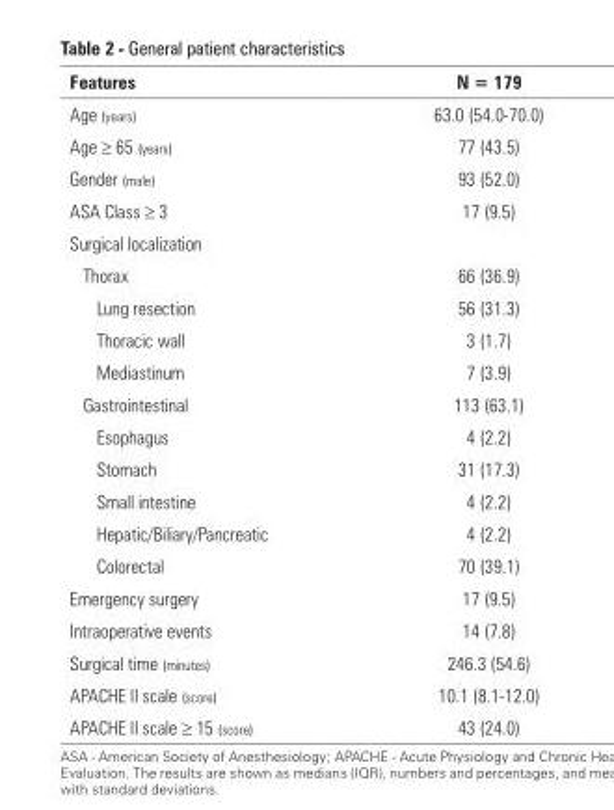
<table><thead><tr><td>Features</td><td>N = 179</td></tr></thead><tbody><tr><td>Age (years)</td><td>63.0 (54.0-70.0)</td></tr><tr><td>Age ≥ 65 (years)</td><td>77 (43.5)</td></tr><tr><td>Gender (male)</td><td>93 (52.0)</td></tr><tr><td>ASA Class ≥ 3</td><td>17 (9.5)</td></tr><tr><td colspan="2">Surgical localization</td></tr><tr><td>Thorax</td><td>66 (36.9)</td></tr><tr><td>Lung resection</td><td>56 (31.3)</td></tr><tr><td>Thoracic wall</td><td>3 (1.7)</td></tr><tr><td>Mediastinum</td><td>7 (3.9)</td></tr><tr><td>Gastrointestinal</td><td>113 (63.1)</td></tr><tr><td>Esophagus</td><td>4 (2.2)</td></tr><tr><td>Stomach</td><td>31 (17.3)</td></tr><tr><td>Small intestine</td><td>4 (2.2)</td></tr><tr><td>Hepatic/Biliary/Pancreatic</td><td>4 (2.2)</td></tr><tr><td>Colorectal</td><td>70 (39.1)</td></tr><tr><td>Emergency surgery</td><td>17 (9.5)</td></tr><tr><td>Intraoperative events</td><td>14 (7.8)</td></tr><tr><td>Surgical time (minutes)</td><td>246.3 (54.6)</td></tr><tr><td>APACHE II scale (score)</td><td>10.1 (8.1-12.0)</td></tr><tr><td>APACHE II scale ≥ 15 (score)</td><td>43 (24.0)</td></tr></tbody></table>